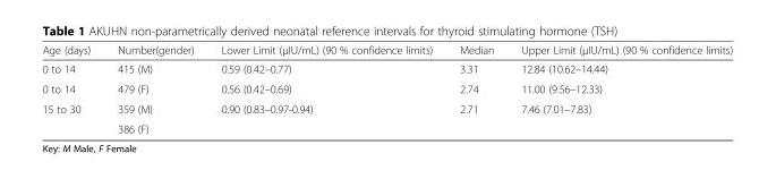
<table><thead><tr><td>Age (days)</td><td>Number(gender)</td><td>Lower Limit (μIU/mL) (90 % confidence limits)</td><td>Median</td><td>Upper Limit (μIU/mL) (90 % confidence limits)</td></tr></thead><tbody><tr><td>0 to 14</td><td>415 (M)</td><td>0.59 (0.42–0.77)</td><td>3.31</td><td>12.84 (10.62–14.44)</td></tr><tr><td>0 to 14</td><td>479 (F)</td><td>0.56 (0.42–0.69)</td><td>2.74</td><td>11.00 (9.56–12.33)</td></tr><tr><td rowspan="2">15 to 30</td><td>359 (M)</td><td rowspan="2">0.90 (0.83–0.97-0.94)</td><td rowspan="2">2.71</td><td rowspan="2">7.46 (7.01–7.83)</td></tr><tr><td>386 (F)</td></tr></tbody></table>